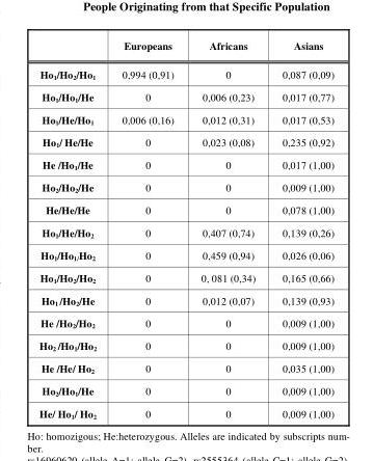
<table><thead><tr><td></td><td>Europeans</td><td>Africans</td><td>Asians</td></tr></thead><tbody><tr><td>Ho<sub>1</sub>/Ho<sub>2</sub>/Ho<sub>1</sub></td><td>0,994 (0,91)</td><td>0</td><td>0,087 (0,09)</td></tr><tr><td>Ho<sub>1</sub>/Ho<sub>1</sub>/He</td><td>0</td><td>0,006 (0,23)</td><td>0,017 (0,77)</td></tr><tr><td>Ho<sub>1</sub>/He/Ho<sub>1</sub></td><td>0,006 (0,16)</td><td>0,012 (0,31)</td><td>0,017 (0,53)</td></tr><tr><td>Ho<sub>1</sub>/ He/He</td><td>0</td><td>0,023 (0,08)</td><td>0,235 (0,92)</td></tr><tr><td>He /Ho<sub>1</sub>/He</td><td>0</td><td>0</td><td>0,017 (1,00)</td></tr><tr><td>Ho<sub>2</sub>/Ho<sub>2</sub>/He</td><td>0</td><td>0</td><td>0,009 (1,00)</td></tr><tr><td>He/He/He</td><td>0</td><td>0</td><td>0,078 (1,00)</td></tr><tr><td>Ho<sub>1</sub>/He/Ho<sub>2</sub></td><td>0</td><td>0,407 (0,74)</td><td>0,139 (0,26)</td></tr><tr><td>Ho<sub>1</sub>/Ho<sub>1/</sub>Ho<sub>2</sub></td><td>0</td><td>0,459 (0,94)</td><td>0,026 (0,06)</td></tr><tr><td>Ho<sub>1</sub>/Ho<sub>2</sub>/Ho<sub>2</sub></td><td>0</td><td>0, 081 (0,34)</td><td>0,165 (0,66)</td></tr><tr><td>Ho<sub>1</sub> /Ho<sub>2</sub>/He</td><td>0</td><td>0,012 (0,07)</td><td>0,139 (0,93)</td></tr><tr><td>He /Ho<sub>2</sub>/Ho<sub>2</sub></td><td>0</td><td>0</td><td>0,009 (1,00)</td></tr><tr><td>Ho<sub>2</sub> /Ho<sub>1</sub>/Ho<sub>2</sub></td><td>0</td><td>0</td><td>0,009 (1,00)</td></tr><tr><td>He /He/ Ho<sub>2</sub></td><td>0</td><td>0</td><td>0,035 (1,00)</td></tr><tr><td>Ho<sub>2</sub>/Ho<sub>1</sub>/He</td><td>0</td><td>0</td><td>0,009 (1,00)</td></tr><tr><td>He/ Ho<sub>1</sub>/ Ho<sub>2</sub></td><td>0</td><td>0</td><td>0,009 (1,00)</td></tr></tbody></table>